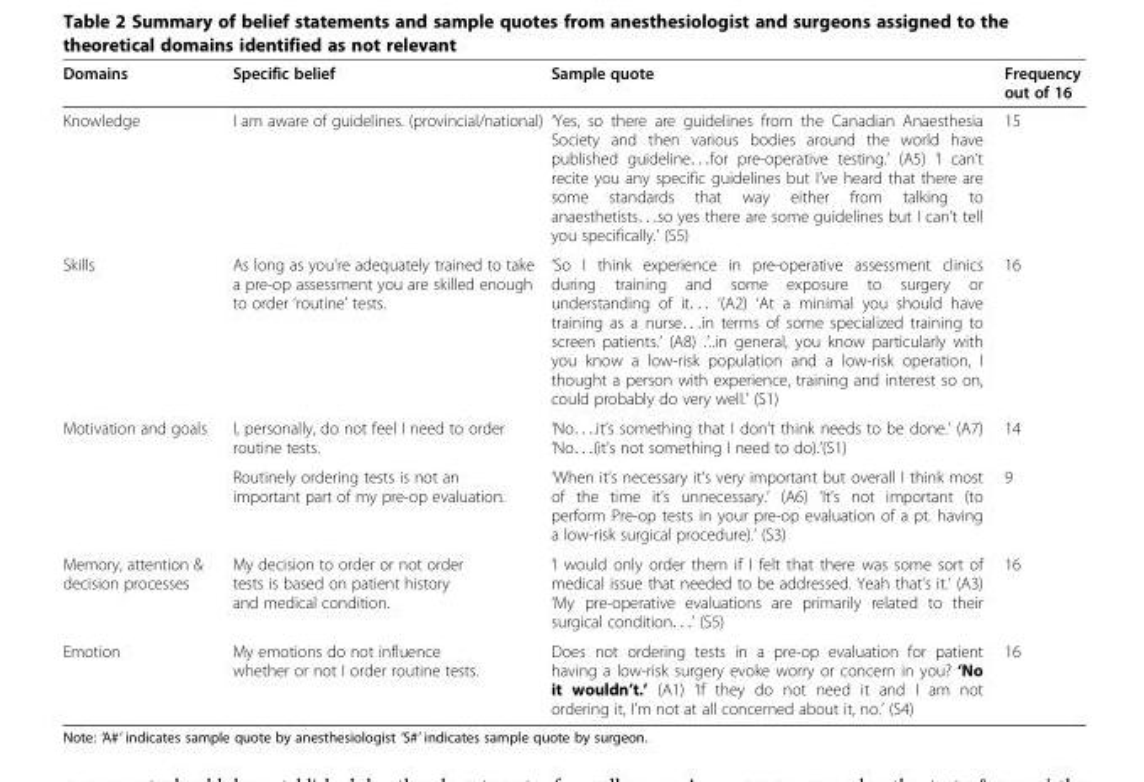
<table><thead><tr><td>Domains</td><td>Specific belief</td><td>Sample quote</td><td>Frequency out of 16</td></tr></thead><tbody><tr><td>Knowledge</td><td>I am aware of guidelines. (provincial/national)</td><td>‘Yes, so there are guidelines from the Canadian Anaesthesia Society and then various bodies around the world have published guideline. . .for pre-operative testing.’ (A5) ‘I can’t recite you any specific guidelines but I’ve heard that there are some standards that way either from talking to anaesthetists. . .so yes there are some guidelines but I can’t tell you specifically.’ (S5)</td><td>15</td></tr><tr><td>Skills</td><td>As long as you&#x27;re adequately trained to take a pre-op assessment you are skilled enough to order ‘routine’ tests.</td><td>‘So I think experience in pre-operative assessment clinics during training and some exposure to surgery or understanding of it. . . ‘(A2) ‘At a minimal you should have training as a nurse. . .in terms of some specialized training to screen patients.’ (A8) .’..in general, you know particularly with you know a low-risk population and a low-risk operation, I thought a person with experience, training and interest so on, could probably do very well.’ (S1)</td><td>16</td></tr><tr><td rowspan="2">Motivation and goals</td><td>I, personally, do not feel I need to order routine tests.</td><td>‘No. . ..it’s something that I don’t think needs to be done.’ (A7) ‘No. . .(it&#x27;s not something I need to do).’(S1)</td><td>14</td></tr><tr><td>Routinely ordering tests is not an important part of my pre-op evaluation.</td><td>‘When it’s necessary it’s very important but overall I think most of the time it’s unnecessary.’ (A6) ‘It’s not important (to perform Pre-op tests in your pre-op evaluation of a pt. having a low-risk surgical procedure).’ (S3)</td><td>9</td></tr><tr><td>Memory, attention &amp; decision processes</td><td>My decision to order or not order tests is based on patient history and medical condition.</td><td>‘I would only order them if I felt that there was some sort of medical issue that needed to be addressed. Yeah that’s it.’ (A3) ‘My pre-operative evaluations are primarily related to their surgical condition. . .’ (S5)</td><td>16</td></tr><tr><td>Emotion</td><td>My emotions do not influence whether or not I order routine tests.</td><td>Does not ordering tests in a pre-op evaluation for patient having a low-risk surgery evoke worry or concern in you? ‘No it wouldn’t.’ (A1) ‘If they do not need it and I am not ordering it, I’m not at all concerned about it, no.’ (S4)</td><td>16</td></tr></tbody></table>